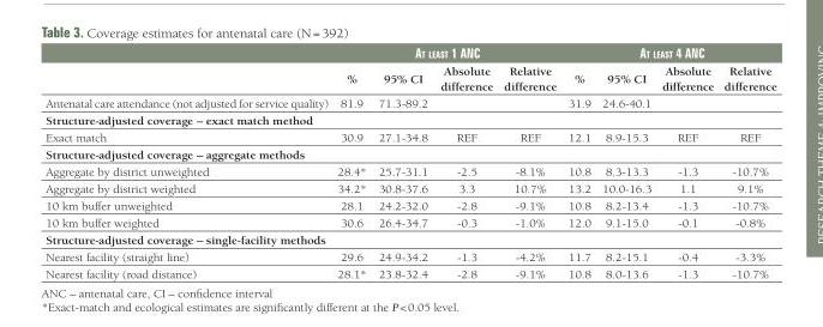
<table><thead><tr><td rowspan="2"></td><td colspan="4">at least 1 anC</td><td colspan="4">at least 4 anC</td></tr><tr><td>%</td><td>95% CI</td><td>Absolute difference</td><td>Relative difference</td><td>%</td><td>95% CI</td><td>Absolute difference</td><td>Relative difference</td></tr></thead><tbody><tr><td>Antenatal care attendance (not adjusted for service quality)</td><td>81.9</td><td>71.3-89.2</td><td></td><td></td><td>31.9</td><td>24.6-40.1</td><td></td><td></td></tr><tr><td colspan="9">Structure-adjusted coverage – exact match method</td></tr><tr><td>Exact match</td><td>30.9</td><td>27.1-34.8</td><td>REF</td><td>REF</td><td>12.1</td><td>8.9-15.3</td><td>REF</td><td>REF</td></tr><tr><td colspan="9">Structure-adjusted coverage – aggregate methods</td></tr><tr><td>Aggregate by district unweighted</td><td>28.4*</td><td>25.7-31.1</td><td>-2.5</td><td>-8.1%</td><td>10.8</td><td>8.3-13.3</td><td>-1.3</td><td>-10.7%</td></tr><tr><td>Aggregate by district weighted</td><td>34.2*</td><td>30.8-37.6</td><td>3.3</td><td>10.7%</td><td>13.2</td><td>10.0-16.3</td><td>1.1</td><td>9.1%</td></tr><tr><td>10 km buffer unweighted</td><td>28.1</td><td>24.2-32.0</td><td>-2.8</td><td>-9.1%</td><td>10.8</td><td>8.2-13.4</td><td>-1.3</td><td>-10.7%</td></tr><tr><td>10 km buffer weighted</td><td>30.6</td><td>26.4-34.7</td><td>-0.3</td><td>-1.0%</td><td>12.0</td><td>9.1-15.0</td><td>-0.1</td><td>-0.8%</td></tr><tr><td colspan="9">Structure-adjusted coverage – single-facility methods</td></tr><tr><td>Nearest facility (straight line)</td><td>29.6</td><td>24.9-34.2</td><td>-1.3</td><td>-4.2%</td><td>11.7</td><td>8.2-15.1</td><td>-0.4</td><td>-3.3%</td></tr><tr><td>Nearest facility (road distance)</td><td>28.1*</td><td>23.8-32.4</td><td>-2.8</td><td>-9.1%</td><td>10.8</td><td>8.0-13.6</td><td>-1.3</td><td>-10.7%</td></tr></tbody></table>